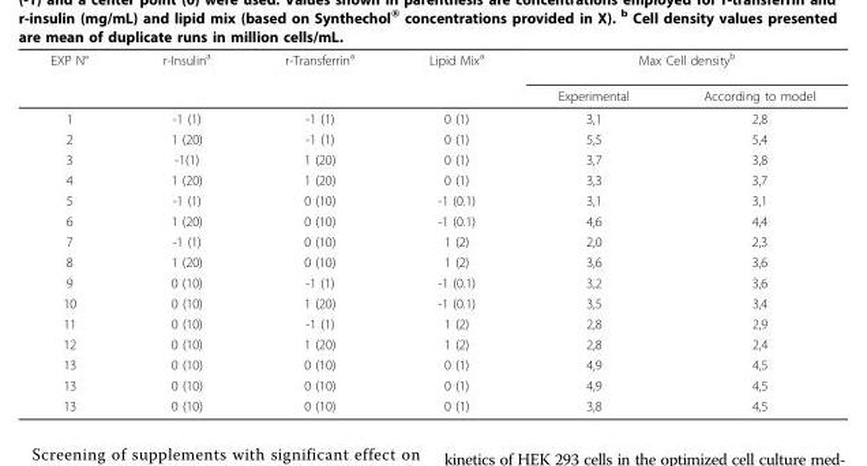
<table><thead><tr><td rowspan="2">EXP N°</td><td rowspan="2">r-Insulin<sup>a</sup></td><td rowspan="2">r-Transferrin<sup>a</sup></td><td rowspan="2">Lipid Mix<sup>a</sup></td><td colspan="2">Max Cell density<sup>b</sup></td></tr><tr><td>Experimental</td><td>According to model</td></tr></thead><tbody><tr><td>1</td><td>-1 (1)</td><td>-1 (1)</td><td>0 (1)</td><td>3,1</td><td>2,8</td></tr><tr><td>2</td><td>1 (20)</td><td>-1 (1)</td><td>0 (1)</td><td>5,5</td><td>5,4</td></tr><tr><td>3</td><td>-1(1)</td><td>1 (20)</td><td>0 (1)</td><td>3,7</td><td>3,8</td></tr><tr><td>4</td><td>1 (20)</td><td>1 (20)</td><td>0 (1)</td><td>3,3</td><td>3,7</td></tr><tr><td>5</td><td>-1 (1)</td><td>0 (10)</td><td>-1 (0.1)</td><td>3,1</td><td>3,1</td></tr><tr><td>6</td><td>1 (20)</td><td>0 (10)</td><td>-1 (0.1)</td><td>4,6</td><td>4,4</td></tr><tr><td>7</td><td>-1 (1)</td><td>0 (10)</td><td>1 (2)</td><td>2,0</td><td>2,3</td></tr><tr><td>8</td><td>1 (20)</td><td>0 (10)</td><td>1 (2)</td><td>3,6</td><td>3,6</td></tr><tr><td>9</td><td>0 (10)</td><td>-1 (1)</td><td>-1 (0.1)</td><td>3,2</td><td>3,6</td></tr><tr><td>10</td><td>0 (10)</td><td>1 (20)</td><td>-1 (0.1)</td><td>3,5</td><td>3,4</td></tr><tr><td>11</td><td>0 (10)</td><td>-1 (1)</td><td>1 (2)</td><td>2,8</td><td>2,9</td></tr><tr><td>12</td><td>0 (10)</td><td>1 (20)</td><td>1 (2)</td><td>2,8</td><td>2,4</td></tr><tr><td>13</td><td>0 (10)</td><td>0 (10)</td><td>0 (1)</td><td>4,9</td><td>4,5</td></tr><tr><td>13</td><td>0 (10)</td><td>0 (10)</td><td>0 (1)</td><td>4,9</td><td>4,5</td></tr><tr><td>13</td><td>0 (10)</td><td>0 (10)</td><td>0 (1)</td><td>3,8</td><td>4,5</td></tr></tbody></table>